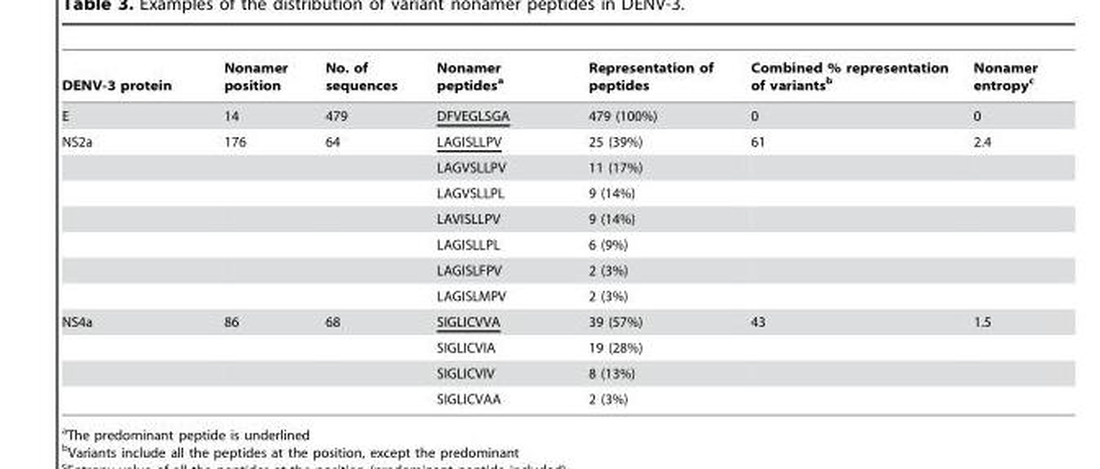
<table><thead><tr><td>DENV-3 protein</td><td>Nonamer position</td><td>No. of sequences</td><td>Nonamer peptides<sup>a</sup></td><td>Representation of peptides</td><td>Combined % representation of variants<sup>b</sup></td><td>Nonamer entropy<sup>c</sup></td></tr></thead><tbody><tr><td>E</td><td>14</td><td>479</td><td>DFVEGLSGA</td><td>479 (100%)</td><td>0</td><td>0</td></tr><tr><td rowspan="7">NS2a</td><td>176</td><td>64</td><td>LAGISLLPV</td><td>25 (39%)</td><td>61</td><td>2.4</td></tr><tr><td></td><td></td><td>LAGVSLLPV</td><td>11 (17%)</td><td></td><td></td></tr><tr><td></td><td></td><td>LAGVSLLPL</td><td>9 (14%)</td><td></td><td></td></tr><tr><td></td><td></td><td>LAVISLLPV</td><td>9 (14%)</td><td></td><td></td></tr><tr><td></td><td></td><td>LAGISLLPL</td><td>6 (9%)</td><td></td><td></td></tr><tr><td></td><td></td><td>LAGISLFPV</td><td>2 (3%)</td><td></td><td></td></tr><tr><td></td><td></td><td>LAGISLMPV</td><td>2 (3%)</td><td></td><td></td></tr><tr><td rowspan="4">NS4a</td><td>86</td><td>68</td><td>SIGLICVVA</td><td>39 (57%)</td><td>43</td><td>1.5</td></tr><tr><td></td><td></td><td>SIGLICVIA</td><td>19 (28%)</td><td></td><td></td></tr><tr><td></td><td></td><td>SIGLICVIV</td><td>8 (13%)</td><td></td><td></td></tr><tr><td></td><td></td><td>SIGLICVAA</td><td>2 (3%)</td><td></td><td></td></tr></tbody></table>